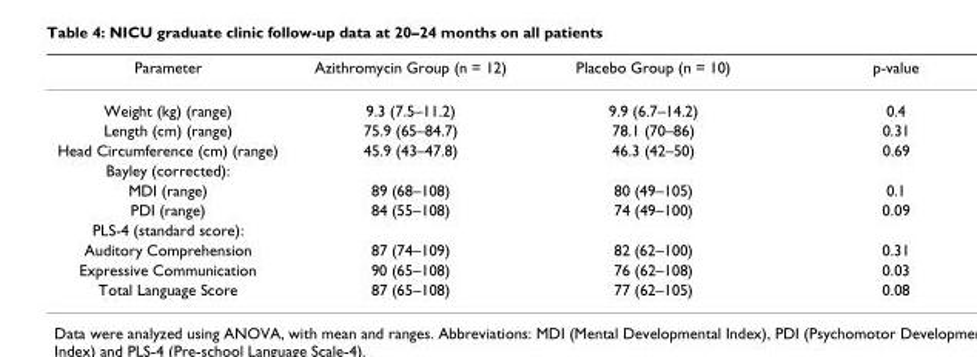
<table><thead><tr><td>Parameter</td><td>Azithromycin Group (n = 12)</td><td>Placebo Group (n = 10)</td><td>p-value</td></tr></thead><tbody><tr><td>Weight (kg) (range)</td><td>9.3 (7.5–11.2)</td><td>9.9 (6.7–14.2)</td><td>0.4</td></tr><tr><td>Length (cm) (range)</td><td>75.9 (65–84.7)</td><td>78.1 (70–86)</td><td>0.31</td></tr><tr><td>Head Circumference (cm) (range)</td><td>45.9 (43–47.8)</td><td>46.3 (42–50)</td><td>0.69</td></tr><tr><td colspan="4">Bayley (corrected):</td></tr><tr><td>MDI (range)</td><td>89 (68–108)</td><td>80 (49–105)</td><td>0.1</td></tr><tr><td>PDI (range)</td><td>84 (55–108)</td><td>74 (49–100)</td><td>0.09</td></tr><tr><td colspan="4">PLS-4 (standard score):</td></tr><tr><td>Auditory Comprehension</td><td>87 (74–109)</td><td>82 (62–100)</td><td>0.31</td></tr><tr><td>Expressive Communication</td><td>90 (65–108)</td><td>76 (62–108)</td><td>0.03</td></tr><tr><td>Total Language Score</td><td>87 (65–108)</td><td>77 (62–105)</td><td>0.08</td></tr></tbody></table>